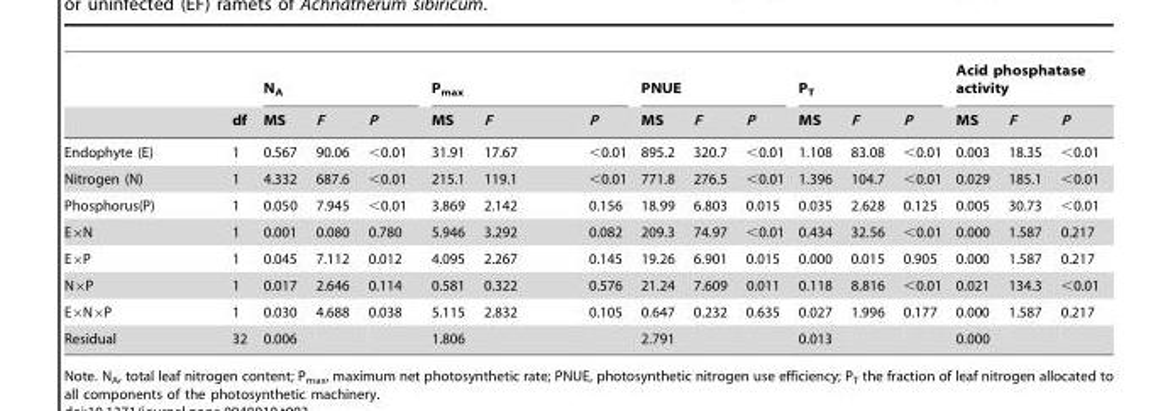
<table><thead><tr><td rowspan="2"></td><td rowspan="2">df</td><td colspan="3">N<sub>A</sub></td><td colspan="3">P<sub>max</sub></td><td colspan="3">PNUE</td><td colspan="3">P<sub>T</sub></td><td colspan="3">Acid phosphatase activity</td></tr><tr><td>MS</td><td>F</td><td>P</td><td>MS</td><td>F</td><td>P</td><td>MS</td><td>F</td><td>P</td><td>MS</td><td>F</td><td>P</td><td>MS</td><td>F</td><td>P</td></tr></thead><tbody><tr><td>Endophyte (E)</td><td>1</td><td>0.567</td><td>90.06</td><td>&lt;0.01</td><td>31.91</td><td>17.67</td><td>&lt;0.01</td><td>895.2</td><td>320.7</td><td>&lt;0.01</td><td>1.108</td><td>83.08</td><td>&lt;0.01</td><td>0.003</td><td>18.35</td><td>&lt;0.01</td></tr><tr><td>Nitrogen (N)</td><td>1</td><td>4.332</td><td>687.6</td><td>&lt;0.01</td><td>215.1</td><td>119.1</td><td>&lt;0.01</td><td>771.8</td><td>276.5</td><td>&lt;0.01</td><td>1.396</td><td>104.7</td><td>&lt;0.01</td><td>0.029</td><td>185.1</td><td>&lt;0.01</td></tr><tr><td>Phosphorus(P)</td><td>1</td><td>0.050</td><td>7.945</td><td>&lt;0.01</td><td>3.869</td><td>2.142</td><td>0.156</td><td>18.99</td><td>6.803</td><td>0.015</td><td>0.035</td><td>2.628</td><td>0.125</td><td>0.005</td><td>30.73</td><td>&lt;0.01</td></tr><tr><td>E×N</td><td>1</td><td>0.001</td><td>0.080</td><td>0.780</td><td>5.946</td><td>3.292</td><td>0.082</td><td>209.3</td><td>74.97</td><td>&lt;0.01</td><td>0.434</td><td>32.56</td><td>&lt;0.01</td><td>0.000</td><td>1.587</td><td>0.217</td></tr><tr><td>E×P</td><td>1</td><td>0.045</td><td>7.112</td><td>0.012</td><td>4.095</td><td>2.267</td><td>0.145</td><td>19.26</td><td>6.901</td><td>0.015</td><td>0.000</td><td>0.015</td><td>0.905</td><td>0.000</td><td>1.587</td><td>0.217</td></tr><tr><td>N×P</td><td>1</td><td>0.017</td><td>2.646</td><td>0.114</td><td>0.581</td><td>0.322</td><td>0.576</td><td>21.24</td><td>7.609</td><td>0.011</td><td>0.118</td><td>8.816</td><td>&lt;0.01</td><td>0.021</td><td>134.3</td><td>&lt;0.01</td></tr><tr><td>E×N×P</td><td>1</td><td>0.030</td><td>4.688</td><td>0.038</td><td>5.115</td><td>2.832</td><td>0.105</td><td>0.647</td><td>0.232</td><td>0.635</td><td>0.027</td><td>1.996</td><td>0.177</td><td>0.000</td><td>1.587</td><td>0.217</td></tr><tr><td>Residual</td><td>32</td><td>0.006</td><td></td><td></td><td>1.806</td><td></td><td></td><td>2.791</td><td></td><td></td><td>0.013</td><td></td><td></td><td>0.000</td><td></td><td></td></tr></tbody></table>